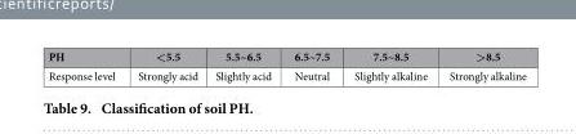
<table><thead><tr><td>PH</td><td>&lt;5.5</td><td>5.5~6.5</td><td>6.5~7.5</td><td>7.5~8.5</td><td>&gt;8.5</td></tr></thead><tbody><tr><td>Response level</td><td>Strongly acid</td><td>Slightly acid</td><td>Neutral</td><td>Slightly alkaline</td><td>Strongly alkaline</td></tr></tbody></table>